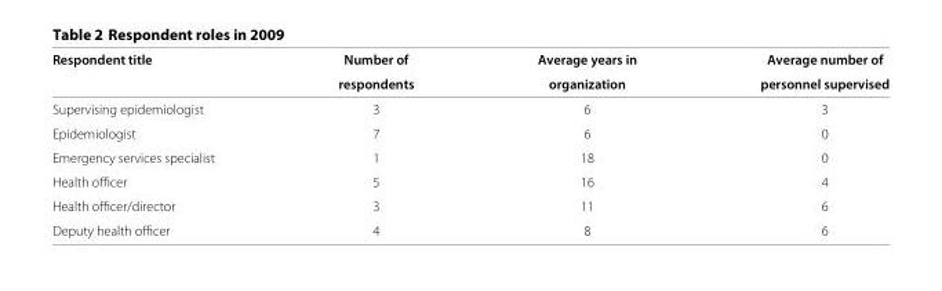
<table><thead><tr><td rowspan="2">Respondent title</td><td rowspan="2">Number of respondents</td><td rowspan="2">Average years in organization</td><td rowspan="2">Average number of personnel supervised</td></tr><tr></tr></thead><tbody><tr><td>Supervising epidemiologist</td><td>3</td><td>6</td><td>3</td></tr><tr><td>Epidemiologist</td><td>7</td><td>6</td><td>0</td></tr><tr><td>Emergency services specialist</td><td>1</td><td>18</td><td>0</td></tr><tr><td>Health officer</td><td>5</td><td>16</td><td>4</td></tr><tr><td>Health officer/director</td><td>3</td><td>11</td><td>6</td></tr><tr><td>Deputy health officer</td><td>4</td><td>8</td><td>6</td></tr></tbody></table>